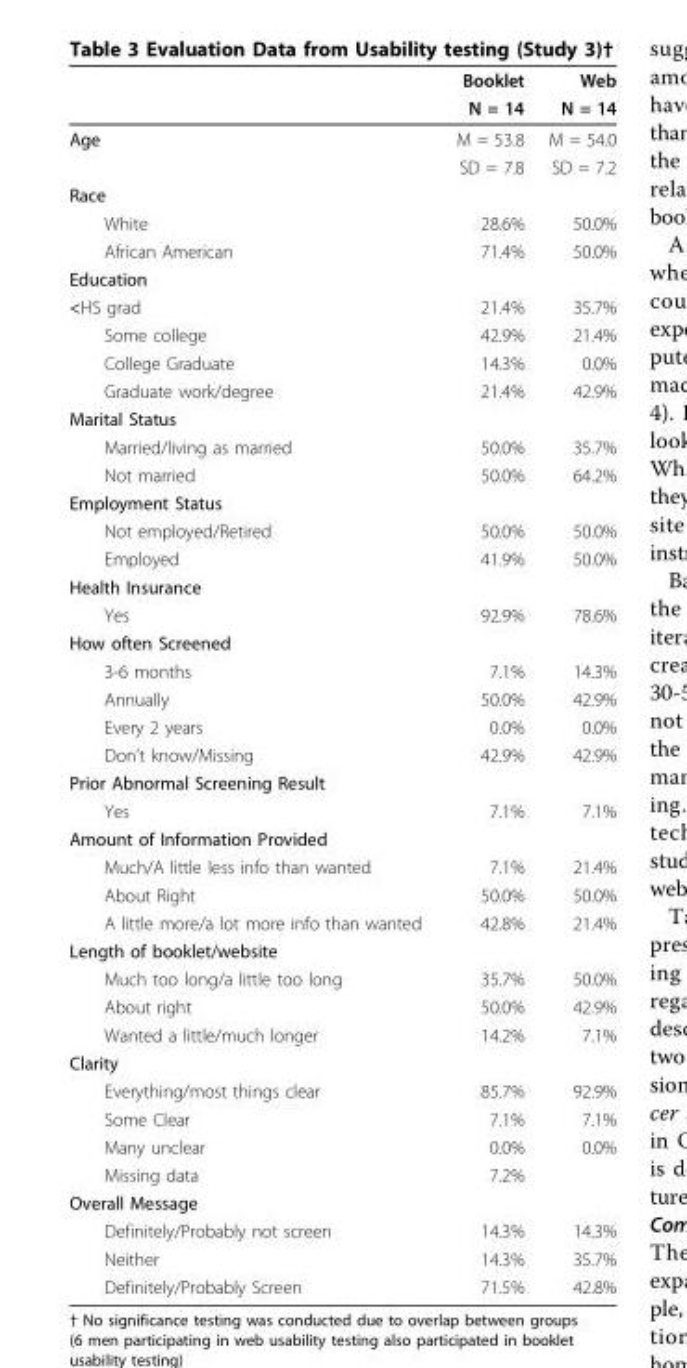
<table><thead><tr><td rowspan="2"></td><td rowspan="2">Booklet N = 14</td><td rowspan="2">Web N = 14</td></tr><tr></tr></thead><tbody><tr><td rowspan="2">Age</td><td>M = 53.8</td><td>M = 54.0</td></tr><tr><td>SD = 7.8</td><td>SD = 7.2</td></tr><tr><td colspan="3">Race</td></tr><tr><td>White</td><td>28.6%</td><td>50.0%</td></tr><tr><td>African American</td><td>71.4%</td><td>50.0%</td></tr><tr><td colspan="3">Education</td></tr><tr><td>&lt;HS grad</td><td>21.4%</td><td>35.7%</td></tr><tr><td>Some college</td><td>42.9%</td><td>21.4%</td></tr><tr><td>College Graduate</td><td>14.3%</td><td>0.0%</td></tr><tr><td>Graduate work/degree</td><td>21.4%</td><td>42.9%</td></tr><tr><td colspan="3">Marital Status</td></tr><tr><td>Married/living as married</td><td>50.0%</td><td>35.7%</td></tr><tr><td>Not married</td><td>50.0%</td><td>64.2%</td></tr><tr><td colspan="3">Employment Status</td></tr><tr><td>Not employed/Retired</td><td>50.0%</td><td>50.0%</td></tr><tr><td>Employed</td><td>41.9%</td><td>50.0%</td></tr><tr><td colspan="3">Health Insurance</td></tr><tr><td>Yes</td><td>92.9%</td><td>78.6%</td></tr><tr><td colspan="3">How often Screened</td></tr><tr><td>3-6 months</td><td>7.1%</td><td>14.3%</td></tr><tr><td>Annually</td><td>50.0%</td><td>42.9%</td></tr><tr><td>Every 2 years</td><td>0.0%</td><td>0.0%</td></tr><tr><td>Don’t know/Missing</td><td>42.9%</td><td>42.9%</td></tr><tr><td colspan="3">Prior Abnormal Screening Result</td></tr><tr><td>Yes</td><td>7.1%</td><td>7.1%</td></tr><tr><td colspan="3">Amount of Information Provided</td></tr><tr><td>Much/A little less info than wanted</td><td>7.1%</td><td>21.4%</td></tr><tr><td>About Right</td><td>50.0%</td><td>50.0%</td></tr><tr><td>A little more/a lot more info than wanted</td><td>42.8%</td><td>21.4%</td></tr><tr><td colspan="3">Length of booklet/website</td></tr><tr><td>Much too long/a little too long</td><td>35.7%</td><td>50.0%</td></tr><tr><td>About right</td><td>50.0%</td><td>42.9%</td></tr><tr><td>Wanted a little/much longer</td><td>14.2%</td><td>7.1%</td></tr><tr><td colspan="3">Clarity</td></tr><tr><td>Everything/most things clear</td><td>85.7%</td><td>92.9%</td></tr><tr><td>Some Clear</td><td>7.1%</td><td>7.1%</td></tr><tr><td>Many unclear</td><td>0.0%</td><td>0.0%</td></tr><tr><td>Missing data</td><td>7.2%</td><td></td></tr><tr><td colspan="3">Overall Message</td></tr><tr><td>Definitely/Probably not screen</td><td>14.3%</td><td>14.3%</td></tr><tr><td>Neither</td><td>14.3%</td><td>35.7%</td></tr><tr><td>Definitely/Probably Screen</td><td>71.5%</td><td>42.8%</td></tr></tbody></table>